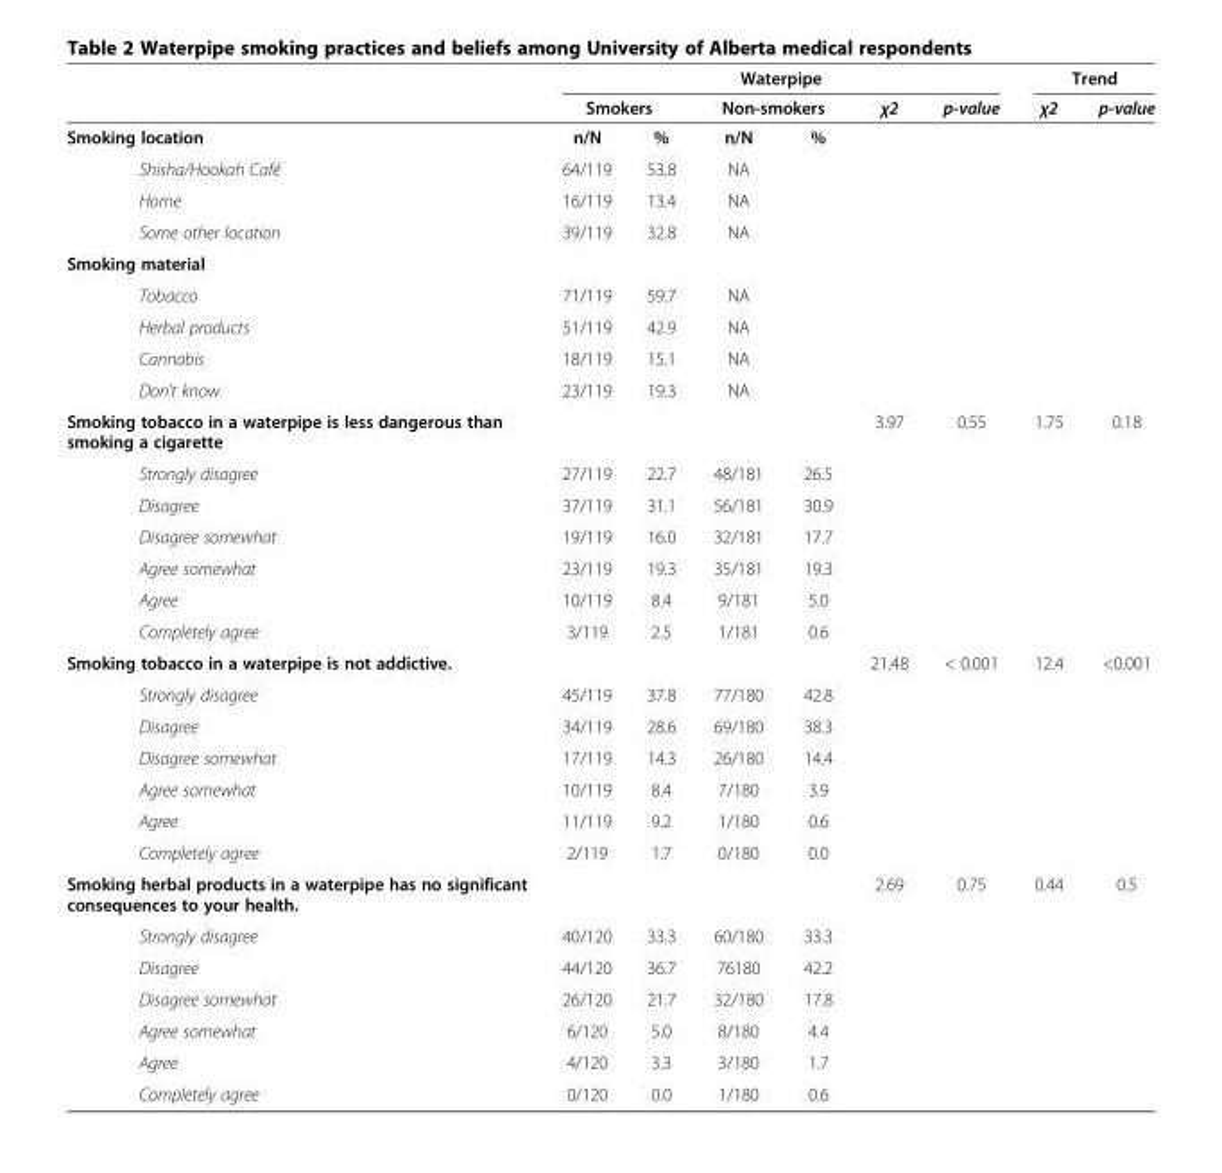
<table><thead><tr><td rowspan="3">Smoking location</td><td colspan="6">Waterpipe</td><td colspan="2">Trend</td></tr><tr><td colspan="2">Smokers</td><td colspan="2">Non-smokers</td><td rowspan="2">χ2</td><td rowspan="2">p-value</td><td rowspan="2">χ2</td><td rowspan="2">p-value</td></tr><tr><td>n/N</td><td>%</td><td>n/N</td><td>%</td></tr></thead><tbody><tr><td>Shisha/Hookah Café</td><td>64/119</td><td>53.8</td><td>NA</td><td></td><td></td><td></td><td></td><td></td></tr><tr><td>Home</td><td>16/119</td><td>13.4</td><td>NA</td><td></td><td></td><td></td><td></td><td></td></tr><tr><td>Some other location</td><td>39/119</td><td>32.8</td><td>NA</td><td></td><td></td><td></td><td></td><td></td></tr><tr><td colspan="9">Smoking material</td></tr><tr><td>Tobacco</td><td>71/119</td><td>59.7</td><td>NA</td><td></td><td></td><td></td><td></td><td></td></tr><tr><td>Herbal products</td><td>51/119</td><td>42.9</td><td>NA</td><td></td><td></td><td></td><td></td><td></td></tr><tr><td>Cannabis</td><td>18/119</td><td>15.1</td><td>NA</td><td></td><td></td><td></td><td></td><td></td></tr><tr><td>Don’t know</td><td>23/119</td><td>19.3</td><td>NA</td><td></td><td></td><td></td><td></td><td></td></tr><tr><td>Smoking tobacco in a waterpipe is less dangerous than smoking a cigarette</td><td></td><td></td><td></td><td></td><td>3.97</td><td>0.55</td><td>1.75</td><td>0.18</td></tr><tr><td>Strongly disagree</td><td>27/119</td><td>22.7</td><td>48/181</td><td>26.5</td><td></td><td></td><td></td><td></td></tr><tr><td>Disagree</td><td>37/119</td><td>31.1</td><td>56/181</td><td>30.9</td><td></td><td></td><td></td><td></td></tr><tr><td>Disagree somewhat</td><td>19/119</td><td>16.0</td><td>32/181</td><td>17.7</td><td></td><td></td><td></td><td></td></tr><tr><td>Agree somewhat</td><td>23/119</td><td>19.3</td><td>35/181</td><td>19.3</td><td></td><td></td><td></td><td></td></tr><tr><td>Agree</td><td>10/119</td><td>8.4</td><td>9/181</td><td>5.0</td><td></td><td></td><td></td><td></td></tr><tr><td>Completely agree</td><td>3/119</td><td>2.5</td><td>1/181</td><td>0.6</td><td></td><td></td><td></td><td></td></tr><tr><td>Smoking tobacco in a waterpipe is not addictive.</td><td></td><td></td><td></td><td></td><td>21.48</td><td>&lt; 0.001</td><td>12.4</td><td>&lt;0.001</td></tr><tr><td>Strongly disagree</td><td>45/119</td><td>37.8</td><td>77/180</td><td>42.8</td><td></td><td></td><td></td><td></td></tr><tr><td>Disagree</td><td>34/119</td><td>28.6</td><td>69/180</td><td>38.3</td><td></td><td></td><td></td><td></td></tr><tr><td>Disagree somewhat</td><td>17/119</td><td>14.3</td><td>26/180</td><td>14.4</td><td></td><td></td><td></td><td></td></tr><tr><td>Agree somewhat</td><td>10/119</td><td>8.4</td><td>7/180</td><td>3.9</td><td></td><td></td><td></td><td></td></tr><tr><td>Agree</td><td>11/119</td><td>9.2</td><td>1/180</td><td>0.6</td><td></td><td></td><td></td><td></td></tr><tr><td>Completely agree</td><td>2/119</td><td>1.7</td><td>0/180</td><td>0.0</td><td></td><td></td><td></td><td></td></tr><tr><td>Smoking herbal products in a waterpipe has no significant consequences to your health.</td><td></td><td></td><td></td><td></td><td>2.69</td><td>0.75</td><td>0.44</td><td>0.5</td></tr><tr><td>Strongly disagree</td><td>40/120</td><td>33.3</td><td>60/180</td><td>33.3</td><td></td><td></td><td></td><td></td></tr><tr><td>Disagree</td><td>44/120</td><td>36.7</td><td>76180</td><td>42.2</td><td></td><td></td><td></td><td></td></tr><tr><td>Disagree somewhat</td><td>26/120</td><td>21.7</td><td>32/180</td><td>17.8</td><td></td><td></td><td></td><td></td></tr><tr><td>Agree somewhat</td><td>6/120</td><td>5.0</td><td>8/180</td><td>4.4</td><td></td><td></td><td></td><td></td></tr><tr><td>Agree</td><td>4/120</td><td>3.3</td><td>3/180</td><td>1.7</td><td></td><td></td><td></td><td></td></tr><tr><td>Completely agree</td><td>0/120</td><td>0.0</td><td>1/180</td><td>0.6</td><td></td><td></td><td></td><td></td></tr></tbody></table>